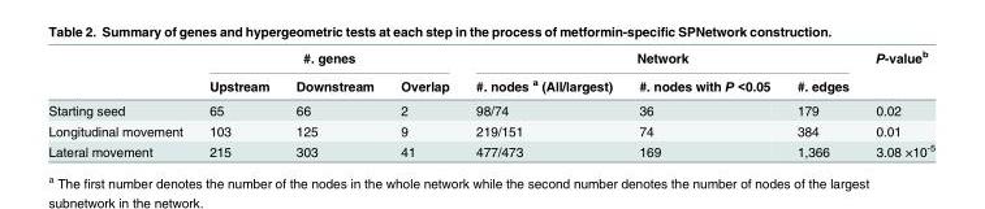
<table><thead><tr><td rowspan="2"></td><td colspan="3">#. genes</td><td colspan="3">Network</td><td rowspan="2">P-value<sup>b</sup></td></tr><tr><td>Upstream</td><td>Downstream</td><td>Overlap</td><td>#. nodes <sup>a</sup> (All/largest)</td><td>#. nodes with P &lt;0.05</td><td>#. edges</td></tr></thead><tbody><tr><td>Starting seed</td><td>65</td><td>66</td><td>2</td><td>98/74</td><td>36</td><td>179</td><td>0.02</td></tr><tr><td>Longitudinal movement</td><td>103</td><td>125</td><td>9</td><td>219/151</td><td>74</td><td>384</td><td>0.01</td></tr><tr><td>Lateral movement</td><td>215</td><td>303</td><td>41</td><td>477/473</td><td>169</td><td>1,366</td><td>3.08 ×10<sup>-5</sup></td></tr></tbody></table>